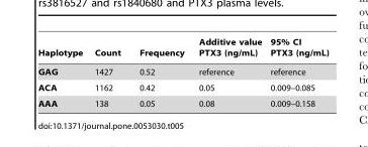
<table><thead><tr><td>Haplotype</td><td>Count</td><td>Frequency</td><td>Additive value PTX3 (ng/mL)</td><td>95% CI PTX3 (ng/mL)</td></tr></thead><tbody><tr><td>GAG</td><td>1427</td><td>0.52</td><td>reference</td><td>reference</td></tr><tr><td>ACA</td><td>1162</td><td>0.42</td><td>0.05</td><td>0.009–0.085</td></tr><tr><td>AAA</td><td>138</td><td>0.05</td><td>0.08</td><td>0.009–0.158</td></tr></tbody></table>